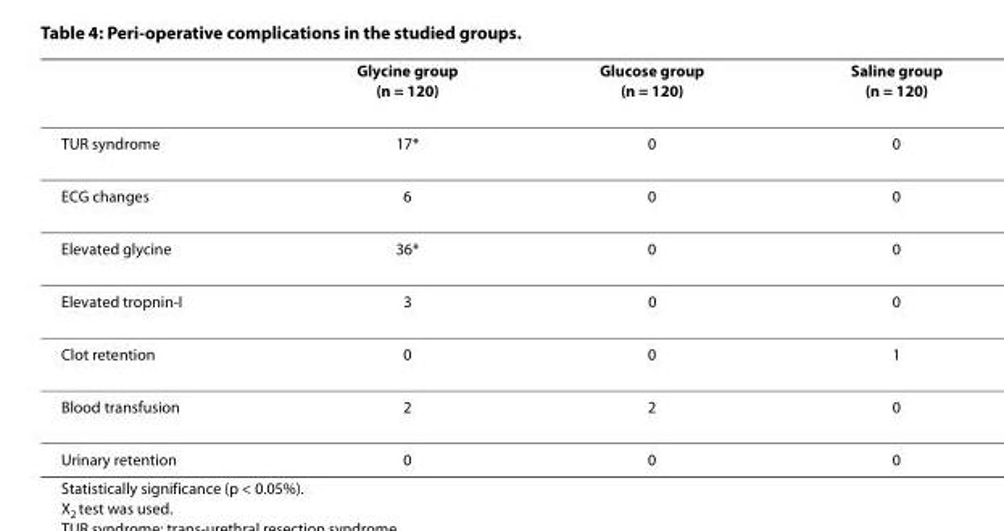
<table><thead><tr><td></td><td>Glycine group (n = 120)</td><td>Glucose group (n = 120)</td><td>Saline group (n = 120)</td></tr></thead><tbody><tr><td>TUR syndrome</td><td>17*</td><td>0</td><td>0</td></tr><tr><td>ECG changes</td><td>6</td><td>0</td><td>0</td></tr><tr><td>Elevated glycine</td><td>36*</td><td>0</td><td>0</td></tr><tr><td>Elevated tropnin-I</td><td>3</td><td>0</td><td>0</td></tr><tr><td>Clot retention</td><td>0</td><td>0</td><td>1</td></tr><tr><td>Blood transfusion</td><td>2</td><td>2</td><td>0</td></tr><tr><td>Urinary retention</td><td>0</td><td>0</td><td>0</td></tr></tbody></table>